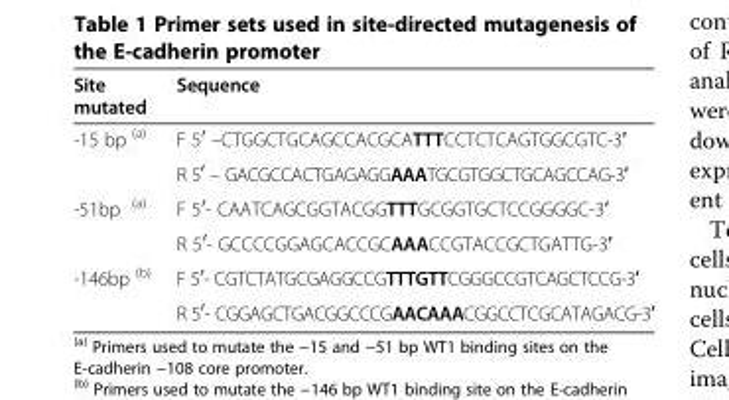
<table><thead><tr><td>Site mutated</td><td>Sequence</td></tr></thead><tbody><tr><td rowspan="2">-15 bp <sup>(a)</sup></td><td>F 5<sup>′</sup> –CTGGCTGCAGCCACGCATTTCCTCTCAGTGGCGTC-3′</td></tr><tr><td>R 5<sup>′</sup> – GACGCCACTGAGAGGAAATGCGTGGCTGCAGCCAG-3′</td></tr><tr><td rowspan="2">-51bp <sup>(a)</sup></td><td>F 5<sup>′</sup>- CAATCAGCGGTACGGTTTGCGGTGCTCCGGGGC-3′</td></tr><tr><td>R 5<sup>′</sup>- GCCCCGGAGCACCGCAAACCGTACCGCTGATTG-3′</td></tr><tr><td rowspan="2">-146bp <sup>(b)</sup></td><td>F 5<sup>′</sup>- CGTCTATGCGAGGCCGTTTGTTCGGGCCGTCAGCTCCG-3′</td></tr><tr><td>R 5<sup>′</sup>- CGGAGCTGACGGCCCGAACAAACGGCCTCGCATAGACG-3′</td></tr></tbody></table>